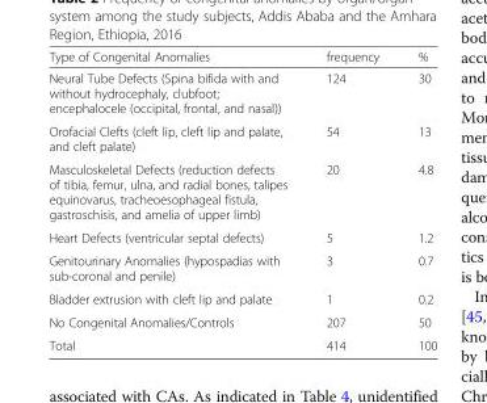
<table><thead><tr><td>Type of Congenital Anomalies</td><td>frequency</td><td>%</td></tr></thead><tbody><tr><td>Neural Tube Defects (Spina bifida with and without hydrocephaly, clubfoot; encephalocele (occipital, frontal, and nasal))</td><td>124</td><td>30</td></tr><tr><td>Orofacial Clefts (cleft lip, cleft lip and palate, and cleft palate)</td><td>54</td><td>13</td></tr><tr><td>Masculoskeletal Defects (reduction defects of tibia, femur, ulna, and radial bones, talipes equinovarus, tracheoesophageal fistula, gastroschisis, and amelia of upper limb)</td><td>20</td><td>4.8</td></tr><tr><td>Heart Defects (ventricular septal defects)</td><td>5</td><td>1.2</td></tr><tr><td>Genitourinary Anomalies (hypospadias with sub-coronal and penile)</td><td>3</td><td>0.7</td></tr><tr><td>Bladder extrusion with cleft lip and palate</td><td>1</td><td>0.2</td></tr><tr><td>No Congenital Anomalies/Controls</td><td>207</td><td>50</td></tr><tr><td>Total</td><td>414</td><td>100</td></tr></tbody></table>